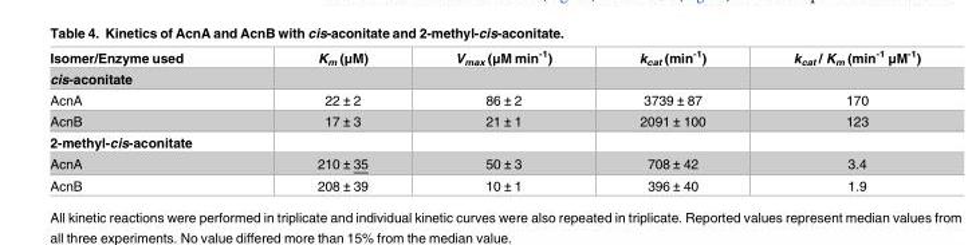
<table><thead><tr><td>Isomer/Enzyme used</td><td>K<sub>m</sub> (μM)</td><td>V<sub>max</sub> (μM min<sup>-1</sup>)</td><td>k<sub>cat</sub> (min<sup>-1</sup>)</td><td>k<sub>cat</sub> / K<sub>m</sub> (min<sup>-1</sup> μM<sup>-1</sup>)</td></tr></thead><tbody><tr><td colspan="5">cis-aconitate</td></tr><tr><td>AcnA</td><td>22 ± 2</td><td>86 ± 2</td><td>3739 ± 87</td><td>170</td></tr><tr><td>AcnB</td><td>17 ± 3</td><td>21 ± 1</td><td>2091 ± 100</td><td>123</td></tr><tr><td colspan="5">2-methyl-cis-aconitate</td></tr><tr><td>AcnA</td><td>210 ± 35</td><td>50 ± 3</td><td>708 ± 42</td><td>3.4</td></tr><tr><td>AcnB</td><td>208 ± 39</td><td>10 ± 1</td><td>396 ± 40</td><td>1.9</td></tr></tbody></table>